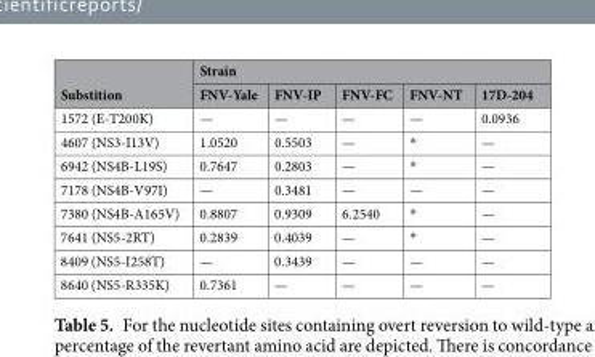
<table><thead><tr><td rowspan="2">Substition</td><td colspan="5">Strain</td></tr><tr><td>FNV-Yale</td><td>FNV-IP</td><td>FNV-FC</td><td>FNV-NT</td><td>17D-204</td></tr></thead><tbody><tr><td>1572 (E-T200K)</td><td>—</td><td>—</td><td>—</td><td>—</td><td>0.0936</td></tr><tr><td>4607 (NS3-I13V)</td><td>1.0520</td><td>0.5503</td><td>—</td><td>*</td><td>—</td></tr><tr><td>6942 (NS4B-L19S)</td><td>0.7647</td><td>0.2803</td><td>—</td><td>*</td><td>—</td></tr><tr><td>7178 (NS4B-V97I)</td><td>—</td><td>0.3481</td><td>—</td><td>—</td><td>—</td></tr><tr><td>7380 (NS4B-A165V)</td><td>0.8807</td><td>0.9309</td><td>6.2540</td><td>*</td><td>—</td></tr><tr><td>7641 (NS5-2RT)</td><td>0.2839</td><td>0.4039</td><td>—</td><td>*</td><td>—</td></tr><tr><td>8409 (NS5-I258T)</td><td>—</td><td>0.3439</td><td>—</td><td>—</td><td>—</td></tr><tr><td>8640 (NS5-R335K)</td><td>0.7361</td><td>—</td><td>—</td><td>—</td><td>—</td></tr></tbody></table>